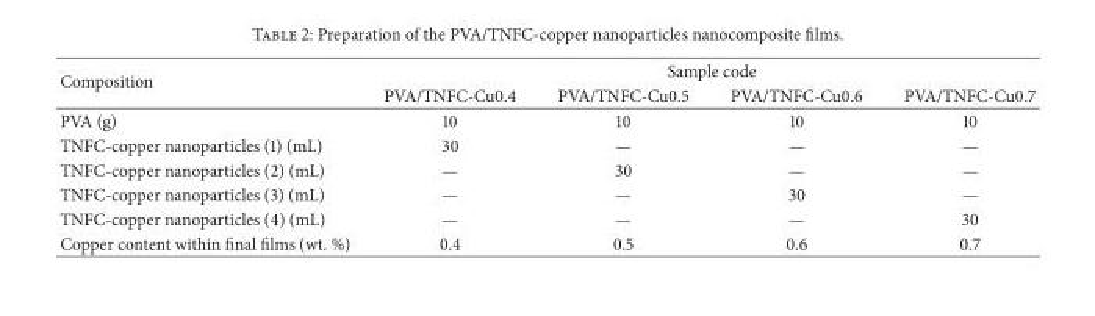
<table><thead><tr><td rowspan="2">Composition</td><td colspan="4">Sample code</td></tr><tr><td>PVA/TNFC-Cu0.4</td><td>PVA/TNFC-Cu0.5</td><td>PVA/TNFC-Cu0.6</td><td>PVA/TNFC-Cu0.7</td></tr></thead><tbody><tr><td>PVA (g)</td><td>10</td><td>10</td><td>10</td><td>10</td></tr><tr><td>TNFC-copper nanoparticles (1) (mL)</td><td>30</td><td>—</td><td>—</td><td>—</td></tr><tr><td>TNFC-copper nanoparticles (2) (mL)</td><td>—</td><td>30</td><td>—</td><td>—</td></tr><tr><td>TNFC-copper nanoparticles (3) (mL)</td><td>—</td><td>—</td><td>30</td><td>—</td></tr><tr><td>TNFC-copper nanoparticles (4) (mL)</td><td>—</td><td>—</td><td>—</td><td>30</td></tr><tr><td>Copper content within final films (wt. %)</td><td>0.4</td><td>0.5</td><td>0.6</td><td>0.7</td></tr></tbody></table>